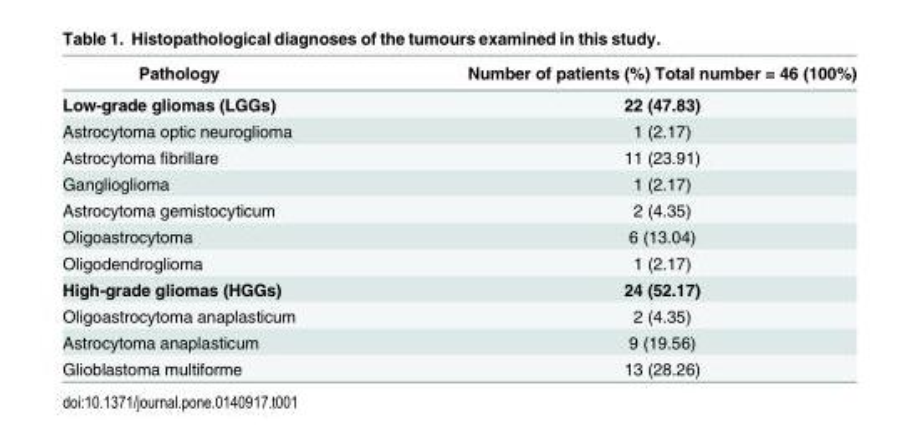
<table><thead><tr><td>Pathology</td><td>Number of patients (%) Total number = 46 (100%)</td></tr></thead><tbody><tr><td>Low-grade gliomas (LGGs)</td><td>22 (47.83)</td></tr><tr><td>Astrocytoma optic neuroglioma</td><td>1 (2.17)</td></tr><tr><td>Astrocytoma fibrillare</td><td>11 (23.91)</td></tr><tr><td>Ganglioglioma</td><td>1 (2.17)</td></tr><tr><td>Astrocytoma gemistocyticum</td><td>2 (4.35)</td></tr><tr><td>Oligoastrocytoma</td><td>6 (13.04)</td></tr><tr><td>Oligodendroglioma</td><td>1 (2.17)</td></tr><tr><td>High-grade gliomas (HGGs)</td><td>24 (52.17)</td></tr><tr><td>Oligoastrocytoma anaplasticum</td><td>2 (4.35)</td></tr><tr><td>Astrocytoma anaplasticum</td><td>9 (19.56)</td></tr><tr><td>Glioblastoma multiforme</td><td>13 (28.26)</td></tr></tbody></table>